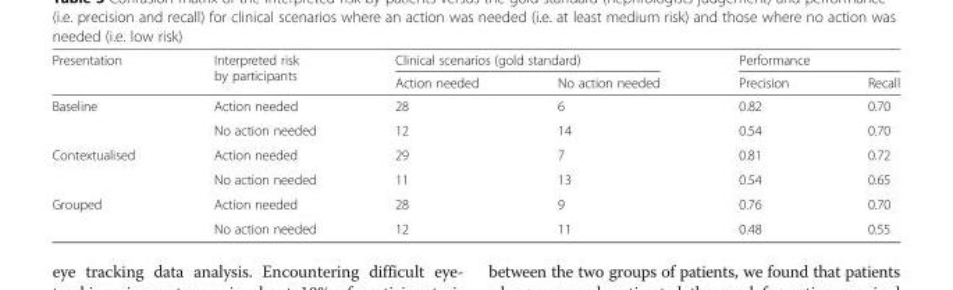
<table><thead><tr><td rowspan="2">Presentation</td><td rowspan="2">Interpreted risk by participants</td><td colspan="2">Clinical scenarios (gold standard)</td><td colspan="2">Performance</td></tr><tr><td>Action needed</td><td>No action needed</td><td>Precision</td><td>Recall</td></tr></thead><tbody><tr><td rowspan="2">Baseline</td><td>Action needed</td><td>28</td><td>6</td><td>0.82</td><td>0.70</td></tr><tr><td>No action needed</td><td>12</td><td>14</td><td>0.54</td><td>0.70</td></tr><tr><td rowspan="2">Contextualised</td><td>Action needed</td><td>29</td><td>7</td><td>0.81</td><td>0.72</td></tr><tr><td>No action needed</td><td>11</td><td>13</td><td>0.54</td><td>0.65</td></tr><tr><td rowspan="2">Grouped</td><td>Action needed</td><td>28</td><td>9</td><td>0.76</td><td>0.70</td></tr><tr><td>No action needed</td><td>12</td><td>11</td><td>0.48</td><td>0.55</td></tr></tbody></table>